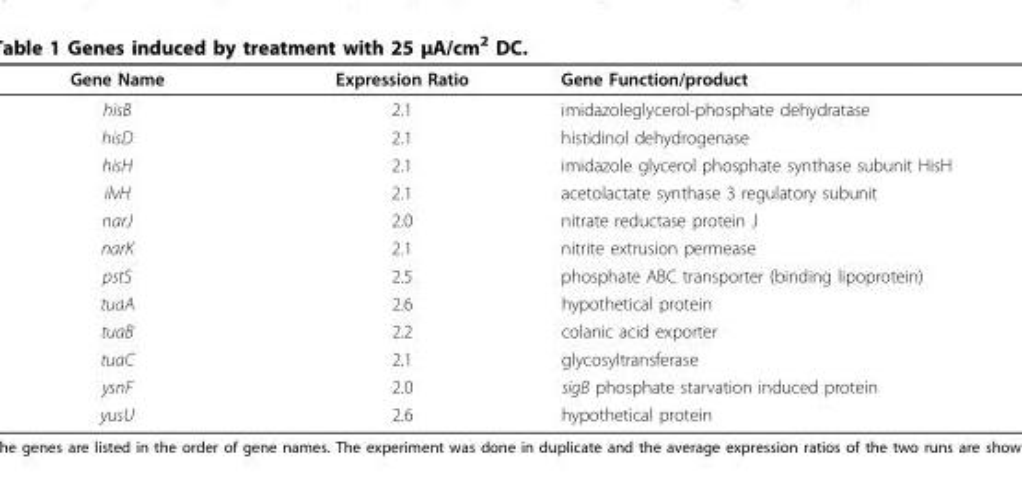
<table><thead><tr><td>Gene Name</td><td>Expression Ratio</td><td>Gene Function/product</td></tr></thead><tbody><tr><td>hisB</td><td>2.1</td><td>imidazoleglycerol-phosphate dehydratase</td></tr><tr><td>hisD</td><td>2.1</td><td>histidinol dehydrogenase</td></tr><tr><td>hisH</td><td>2.1</td><td>imidazole glycerol phosphate synthase subunit HisH</td></tr><tr><td>ilvH</td><td>2.1</td><td>acetolactate synthase 3 regulatory subunit</td></tr><tr><td>narJ</td><td>2.0</td><td>nitrate reductase protein J</td></tr><tr><td>narK</td><td>2.1</td><td>nitrite extrusion permease</td></tr><tr><td>pstS</td><td>2.5</td><td>phosphate ABC transporter (binding lipoprotein)</td></tr><tr><td>tuaA</td><td>2.6</td><td>hypothetical protein</td></tr><tr><td>tuaB</td><td>2.2</td><td>colanic acid exporter</td></tr><tr><td>tuaC</td><td>2.1</td><td>glycosyltransferase</td></tr><tr><td>ysnF</td><td>2.0</td><td>sigB phosphate starvation induced protein</td></tr><tr><td>yusU</td><td>2.6</td><td>hypothetical protein</td></tr></tbody></table>